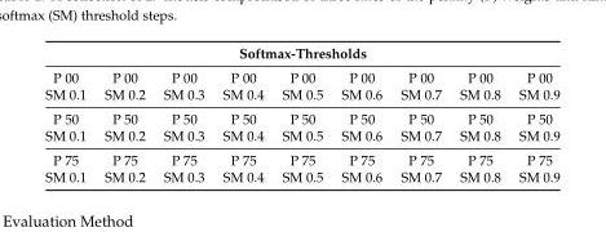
<table><thead><tr><td colspan="9">Softmax-Thresholds</td></tr><tr><td>P 00 SM 0.1</td><td>P 00 SM 0.2</td><td>P 00 SM 0.3</td><td>P 00 SM 0.4</td><td>P 00 SM 0.5</td><td>P 00 SM 0.6</td><td>P 00 SM 0.7</td><td>P 00 SM 0.8</td><td>P 00 SM 0.9</td></tr></thead><tbody><tr><td>P 50 SM 0.1</td><td>P 50 SM 0.2</td><td>P 50 SM 0.3</td><td>P 50 SM 0.4</td><td>P 50 SM 0.5</td><td>P 50 SM 0.6</td><td>P 50 SM 0.7</td><td>P 50 SM 0.8</td><td>P 50 SM 0.9</td></tr><tr><td>P 75 SM 0.1</td><td>P 75 SM 0.2</td><td>P 75 SM 0.3</td><td>P 75 SM 0.4</td><td>P 75 SM 0.5</td><td>P 75 SM 0.6</td><td>P 75 SM 0.7</td><td>P 75 SM 0.8</td><td>P 75 SM 0.9</td></tr></tbody></table>